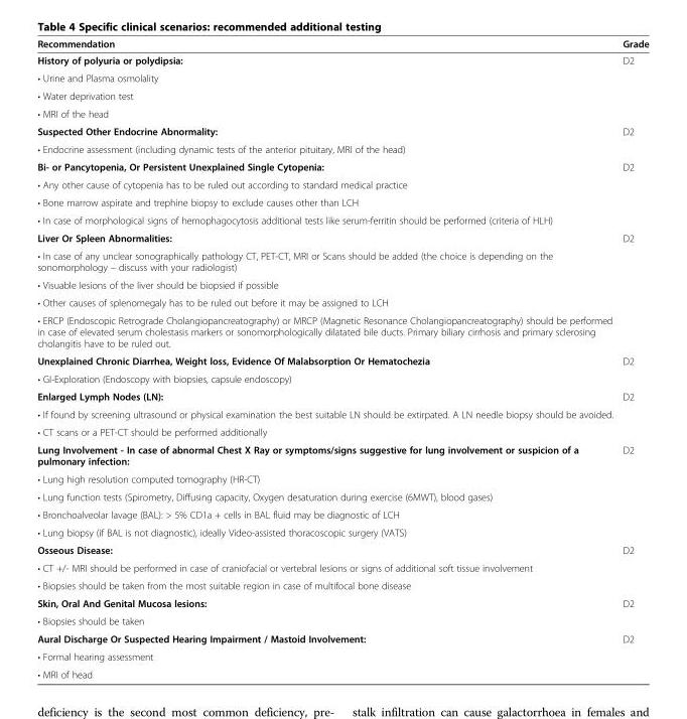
<table><thead><tr><td>Recommendation</td><td>Grade</td></tr></thead><tbody><tr><td>History of polyuria or polydipsia:</td><td>D2</td></tr><tr><td colspan="2">• Urine and Plasma osmolality</td></tr><tr><td colspan="2">• Water deprivation test</td></tr><tr><td colspan="2">• MRI of the head</td></tr><tr><td>Suspected Other Endocrine Abnormality:</td><td>D2</td></tr><tr><td colspan="2">• Endocrine assessment (including dynamic tests of the anterior pituitary, MRI of the head)</td></tr><tr><td>Bi- or Pancytopenia, Or Persistent Unexplained Single Cytopenia:</td><td>D2</td></tr><tr><td colspan="2">• Any other cause of cytopenia has to be ruled out according to standard medical practice</td></tr><tr><td colspan="2">• Bone marrow aspirate and trephine biopsy to exclude causes other than LCH</td></tr><tr><td colspan="2">• In case of morphological signs of hemophagocytosis additional tests like serum-ferritin should be performed (criteria of HLH)</td></tr><tr><td>Liver Or Spleen Abnormalities:</td><td>D2</td></tr><tr><td colspan="2">• In case of any unclear sonographically pathology CT, PET-CT, MRI or Scans should be added (the choice is depending on the sonomorphology – discuss with your radiologist)</td></tr><tr><td colspan="2">• Visuable lesions of the liver should be biopsied if possible</td></tr><tr><td colspan="2">• Other causes of splenomegaly has to be ruled out before it may be assigned to LCH</td></tr><tr><td colspan="2">• ERCP (Endoscopic Retrograde Cholangiopancreatography) or MRCP (Magnetic Resonance Cholangiopancreatography) should be performed in case of elevated serum cholestasis markers or sonomorphologically dilatated bile ducts. Primary biliary cirrhosis and primary sclerosing cholangitis have to be ruled out.</td></tr><tr><td>Unexplained Chronic Diarrhea, Weight loss, Evidence Of Malabsorption Or Hematochezia</td><td>D2</td></tr><tr><td colspan="2">• GI-Exploration (Endoscopy with biopsies, capsule endoscopy)</td></tr><tr><td>Enlarged Lymph Nodes (LN):</td><td>D2</td></tr><tr><td colspan="2">• If found by screening ultrasound or physical examination the best suitable LN should be extirpated. A LN needle biopsy should be avoided.</td></tr><tr><td colspan="2">• CT scans or a PET-CT should be performed additionally</td></tr><tr><td>Lung Involvement - In case of abnormal Chest X Ray or symptoms/signs suggestive for lung involvement or suspicion of a pulmonary infection:</td><td>D2</td></tr><tr><td colspan="2">• Lung high resolution computed tomography (HR-CT)</td></tr><tr><td colspan="2">• Lung function tests (Spirometry, Diffusing capacity, Oxygen desaturation during exercise (6MWT), blood gases)</td></tr><tr><td colspan="2">• Bronchoalveolar lavage (BAL): &gt; 5% CD1a + cells in BAL fluid may be diagnostic of LCH</td></tr><tr><td colspan="2">• Lung biopsy (if BAL is not diagnostic), ideally Video-assisted thoracoscopic surgery (VATS)</td></tr><tr><td>Osseous Disease:</td><td>D2</td></tr><tr><td colspan="2">• CT +/- MRI should be performed in case of craniofacial or vertebral lesions or signs of additional soft tissue involvement</td></tr><tr><td colspan="2">• Biopsies should be taken from the most suitable region in case of multifocal bone disease</td></tr><tr><td>Skin, Oral And Genital Mucosa lesions:</td><td>D2</td></tr><tr><td colspan="2">• Biopsies should be taken</td></tr><tr><td>Aural Discharge Or Suspected Hearing Impairment / Mastoid Involvement:</td><td>D2</td></tr><tr><td colspan="2">• Formal hearing assessment</td></tr><tr><td>• MRI of head</td><td></td></tr></tbody></table>